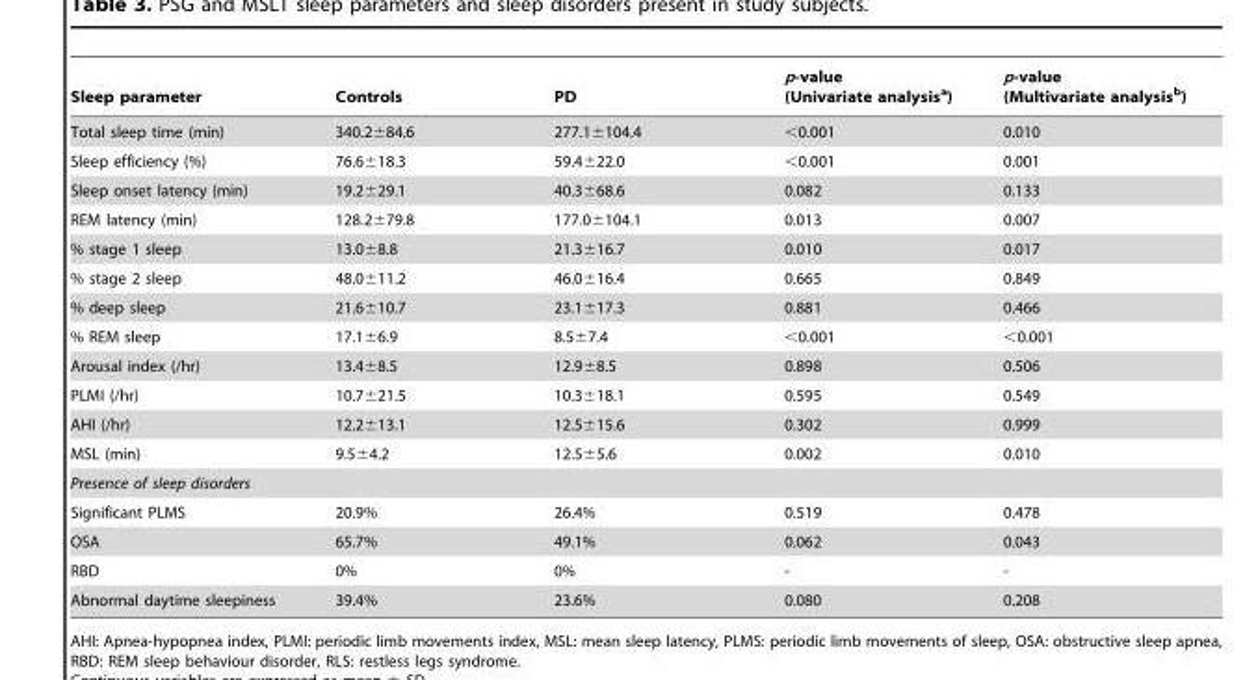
<table><thead><tr><td>Sleep parameter</td><td>Controls</td><td>PD</td><td>p-value (Univariate analysis<sup>a</sup>)</td><td>p-value (Multivariate analysis<sup>b</sup>)</td></tr></thead><tbody><tr><td>Total sleep time (min)</td><td>340.2±84.6</td><td>277.1±104.4</td><td>&lt;0.001</td><td>0.010</td></tr><tr><td>Sleep efficiency (%)</td><td>76.6±18.3</td><td>59.4±22.0</td><td>&lt;0.001</td><td>0.001</td></tr><tr><td>Sleep onset latency (min)</td><td>19.2±29.1</td><td>40.3±68.6</td><td>0.082</td><td>0.133</td></tr><tr><td>REM latency (min)</td><td>128.2±79.8</td><td>177.0±104.1</td><td>0.013</td><td>0.007</td></tr><tr><td>% stage 1 sleep</td><td>13.0±8.8</td><td>21.3±16.7</td><td>0.010</td><td>0.017</td></tr><tr><td>% stage 2 sleep</td><td>48.0±11.2</td><td>46.0±16.4</td><td>0.665</td><td>0.849</td></tr><tr><td>% deep sleep</td><td>21.6±10.7</td><td>23.1±17.3</td><td>0.881</td><td>0.466</td></tr><tr><td>% REM sleep</td><td>17.1±6.9</td><td>8.5±7.4</td><td>&lt;0.001</td><td>&lt;0.001</td></tr><tr><td>Arousal index (/hr)</td><td>13.4±8.5</td><td>12.9±8.5</td><td>0.898</td><td>0.506</td></tr><tr><td>PLMI (/hr)</td><td>10.7±21.5</td><td>10.3±18.1</td><td>0.595</td><td>0.549</td></tr><tr><td>AHI (/hr)</td><td>12.2±13.1</td><td>12.5±15.6</td><td>0.302</td><td>0.999</td></tr><tr><td>MSL (min)</td><td>9.5±4.2</td><td>12.5±5.6</td><td>0.002</td><td>0.010</td></tr><tr><td colspan="5">Presence of sleep disorders</td></tr><tr><td>Significant PLMS</td><td>20.9%</td><td>26.4%</td><td>0.519</td><td>0.478</td></tr><tr><td>OSA</td><td>65.7%</td><td>49.1%</td><td>0.062</td><td>0.043</td></tr><tr><td>RBD</td><td>0%</td><td>0%</td><td>-</td><td>-</td></tr><tr><td>Abnormal daytime sleepiness</td><td>39.4%</td><td>23.6%</td><td>0.080</td><td>0.208</td></tr></tbody></table>